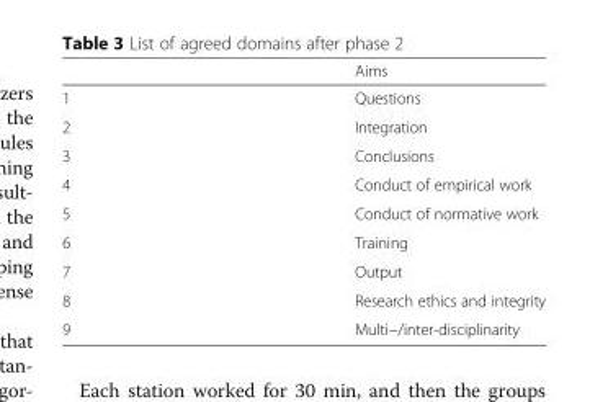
<table><thead><tr><td></td><td>Aims</td></tr></thead><tbody><tr><td>1</td><td>Questions</td></tr><tr><td>2</td><td>Integration</td></tr><tr><td>3</td><td>Conclusions</td></tr><tr><td>4</td><td>Conduct of empirical work</td></tr><tr><td>5</td><td>Conduct of normative work</td></tr><tr><td>6</td><td>Training</td></tr><tr><td>7</td><td>Output</td></tr><tr><td>8</td><td>Research ethics and integrity</td></tr><tr><td>9</td><td>Multi−/inter-disciplinarity</td></tr></tbody></table>